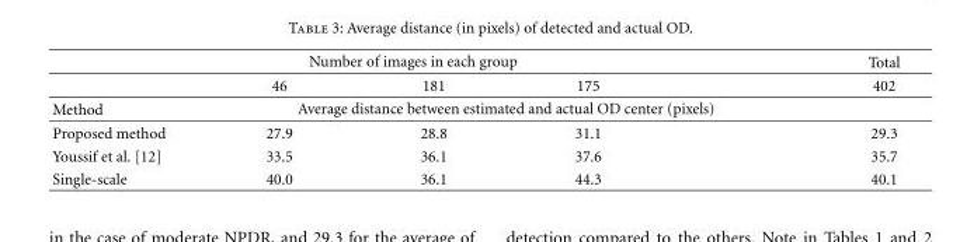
<table><thead><tr><td colspan="4">Number of images in each group</td><td rowspan="2">Total 402</td></tr><tr><td></td><td>46</td><td>181</td><td>175</td></tr></thead><tbody><tr><td>Method</td><td colspan="3">Average distance between estimated and actual OD center (pixels)</td><td></td></tr><tr><td>Proposed method</td><td>27.9</td><td>28.8</td><td>31.1</td><td>29.3</td></tr><tr><td>Youssif et al. [12]</td><td>33.5</td><td>36.1</td><td>37.6</td><td>35.7</td></tr><tr><td>Single-scale</td><td>40.0</td><td>36.1</td><td>44.3</td><td>40.1</td></tr></tbody></table>